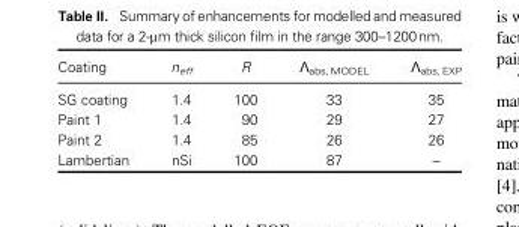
<table><thead><tr><td>Coating</td><td>n<sub>eff</sub></td><td>R</td><td>Λ<sub>abs, MODEL</sub></td><td>Λ<sub>abs, EXP</sub></td></tr></thead><tbody><tr><td>SG coating</td><td>1.4</td><td>100</td><td>33</td><td>35</td></tr><tr><td>Paint 1</td><td>1.4</td><td>90</td><td>29</td><td>27</td></tr><tr><td>Paint 2</td><td>1.4</td><td>85</td><td>26</td><td>26</td></tr><tr><td>Lambertian</td><td>nSi</td><td>100</td><td>87</td><td>–</td></tr></tbody></table>